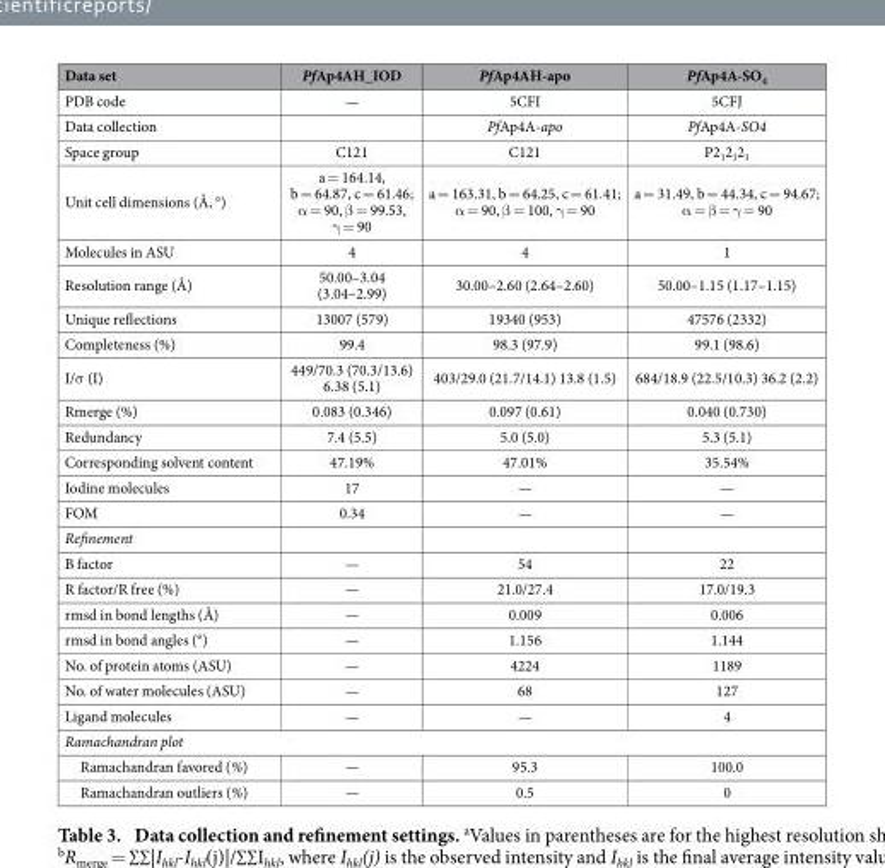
<table><thead><tr><td>Data set</td><td>PfAp4AH_IOD</td><td>PfAp4AH-apo</td><td>PfAp4A-SO<sub>4</sub></td></tr></thead><tbody><tr><td>PDB code</td><td>—</td><td>5CFI</td><td>5CFJ</td></tr><tr><td>Data collection</td><td></td><td>PfAp4A-apo</td><td>PfAp4A-SO4</td></tr><tr><td>Space group</td><td>C121</td><td>C121</td><td>P2<sub>1</sub>2<sub>1</sub>2<sub>1</sub></td></tr><tr><td>Unit cell dimensions (Å, °)</td><td>a = 164.14, b = 64.87, c = 61.46; α = 90, β = 99.53, γ = 90</td><td>a = 163.31, b = 64.25, c = 61.41; α = 90, β = 100, γ = 90</td><td>a = 31.49, b = 44.34, c = 94.67; α = β = γ = 90</td></tr><tr><td>Molecules in ASU</td><td>4</td><td>4</td><td>1</td></tr><tr><td>Resolution range (Å)</td><td>50.00–3.04 (3.04–2.99)</td><td>30.00–2.60 (2.64–2.60)</td><td>50.00–1.15 (1.17–1.15)</td></tr><tr><td>Unique reflections</td><td>13007 (579)</td><td>19340 (953)</td><td>47576 (2332)</td></tr><tr><td>Completeness (%)</td><td>99.4</td><td>98.3 (97.9)</td><td>99.1 (98.6)</td></tr><tr><td>I/σ (I)</td><td>449/70.3 (70.3/13.6) 6.38 (5.1)</td><td>403/29.0 (21.7/14.1) 13.8 (1.5)</td><td>684/18.9 (22.5/10.3) 36.2 (2.2)</td></tr><tr><td>Rmerge (%)</td><td>0.083 (0.346)</td><td>0.097 (0.61)</td><td>0.040 (0.730)</td></tr><tr><td>Redundancy</td><td>7.4 (5.5)</td><td>5.0 (5.0)</td><td>5.3 (5.1)</td></tr><tr><td>Corresponding solvent content</td><td>47.19%</td><td>47.01%</td><td>35.54%</td></tr><tr><td>Iodine molecules</td><td>17</td><td>—</td><td>—</td></tr><tr><td>FOM</td><td>0.34</td><td>—</td><td>—</td></tr><tr><td colspan="4">Refinement</td></tr><tr><td>B factor</td><td>—</td><td>54</td><td>22</td></tr><tr><td>R factor/R free (%)</td><td>—</td><td>21.0/27.4</td><td>17.0/19.3</td></tr><tr><td>rmsd in bond lengths (Å)</td><td>—</td><td>0.009</td><td>0.006</td></tr><tr><td>rmsd in bond angles (°)</td><td>—</td><td>1.156</td><td>1.144</td></tr><tr><td>No. of protein atoms (ASU)</td><td>—</td><td>4224</td><td>1189</td></tr><tr><td>No. of water molecules (ASU)</td><td>—</td><td>68</td><td>127</td></tr><tr><td>Ligand molecules</td><td>—</td><td>—</td><td>4</td></tr><tr><td colspan="4">Ramachandran plot</td></tr><tr><td>Ramachandran favored (%)</td><td>—</td><td>95.3</td><td>100.0</td></tr><tr><td>Ramachandran outliers (%)</td><td>—</td><td>0.5</td><td>0</td></tr></tbody></table>